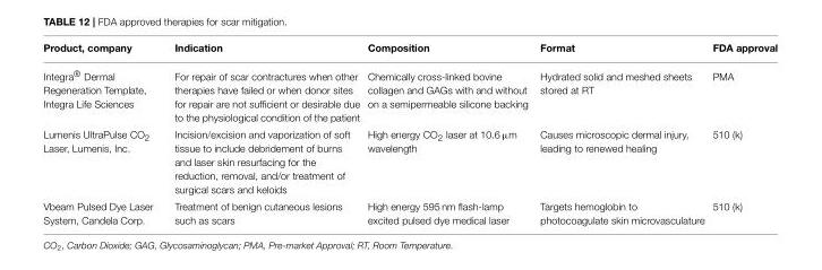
<table><thead><tr><td>Product, company</td><td>Indication</td><td>Composition</td><td>Format</td><td>FDA approval</td></tr></thead><tbody><tr><td>Integra® Dermal Regeneration Template, Integra Life Sciences</td><td>For repair of scar contractures when other therapies have failed or when donor sites for repair are not sufficient or desirable due to the physiological condition of the patient</td><td>Chemically cross-linked bovine collagen and GAGs with and without on a semipermeable silicone backing</td><td>Hydrated solid and meshed sheets stored at RT</td><td>PMA</td></tr><tr><td>Lumenis UltraPulse CO<sub>2</sub> Laser, Lumenis, Inc.</td><td>Incision/excision and vaporization of soft tissue to include debridement of burns and laser skin resurfacing for the reduction, removal, and/or treatment of surgical scars and keloids</td><td>High energy CO<sub>2</sub> laser at 10.6 µm wavelength</td><td>Causes microscopic dermal injury, leading to renewed healing</td><td>510 (k)</td></tr><tr><td>Vbeam Pulsed Dye Laser System, Candela Corp.</td><td>Treatment of benign cutaneous lesions such as scars</td><td>High energy 595 nm flash-lamp excited pulsed dye medical laser</td><td>Targets hemoglobin to photocoagulate skin microvasculature</td><td>510 (k)</td></tr></tbody></table>